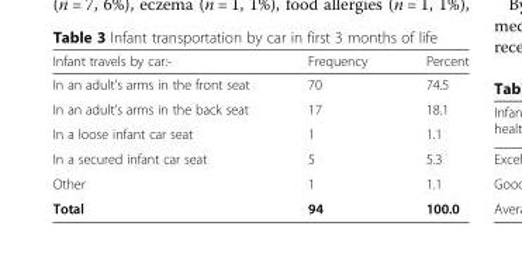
<table><thead><tr><td>Infant travels by car:-</td><td>Frequency</td><td>Percent</td></tr></thead><tbody><tr><td>In an adult’s arms in the front seat</td><td>70</td><td>74.5</td></tr><tr><td>In an adult’s arms in the back seat</td><td>17</td><td>18.1</td></tr><tr><td>In a loose infant car seat</td><td>1</td><td>1.1</td></tr><tr><td>In a secured infant car seat</td><td>5</td><td>5.3</td></tr><tr><td>Other</td><td>1</td><td>1.1</td></tr><tr><td>Total</td><td>94</td><td>100.0</td></tr></tbody></table>